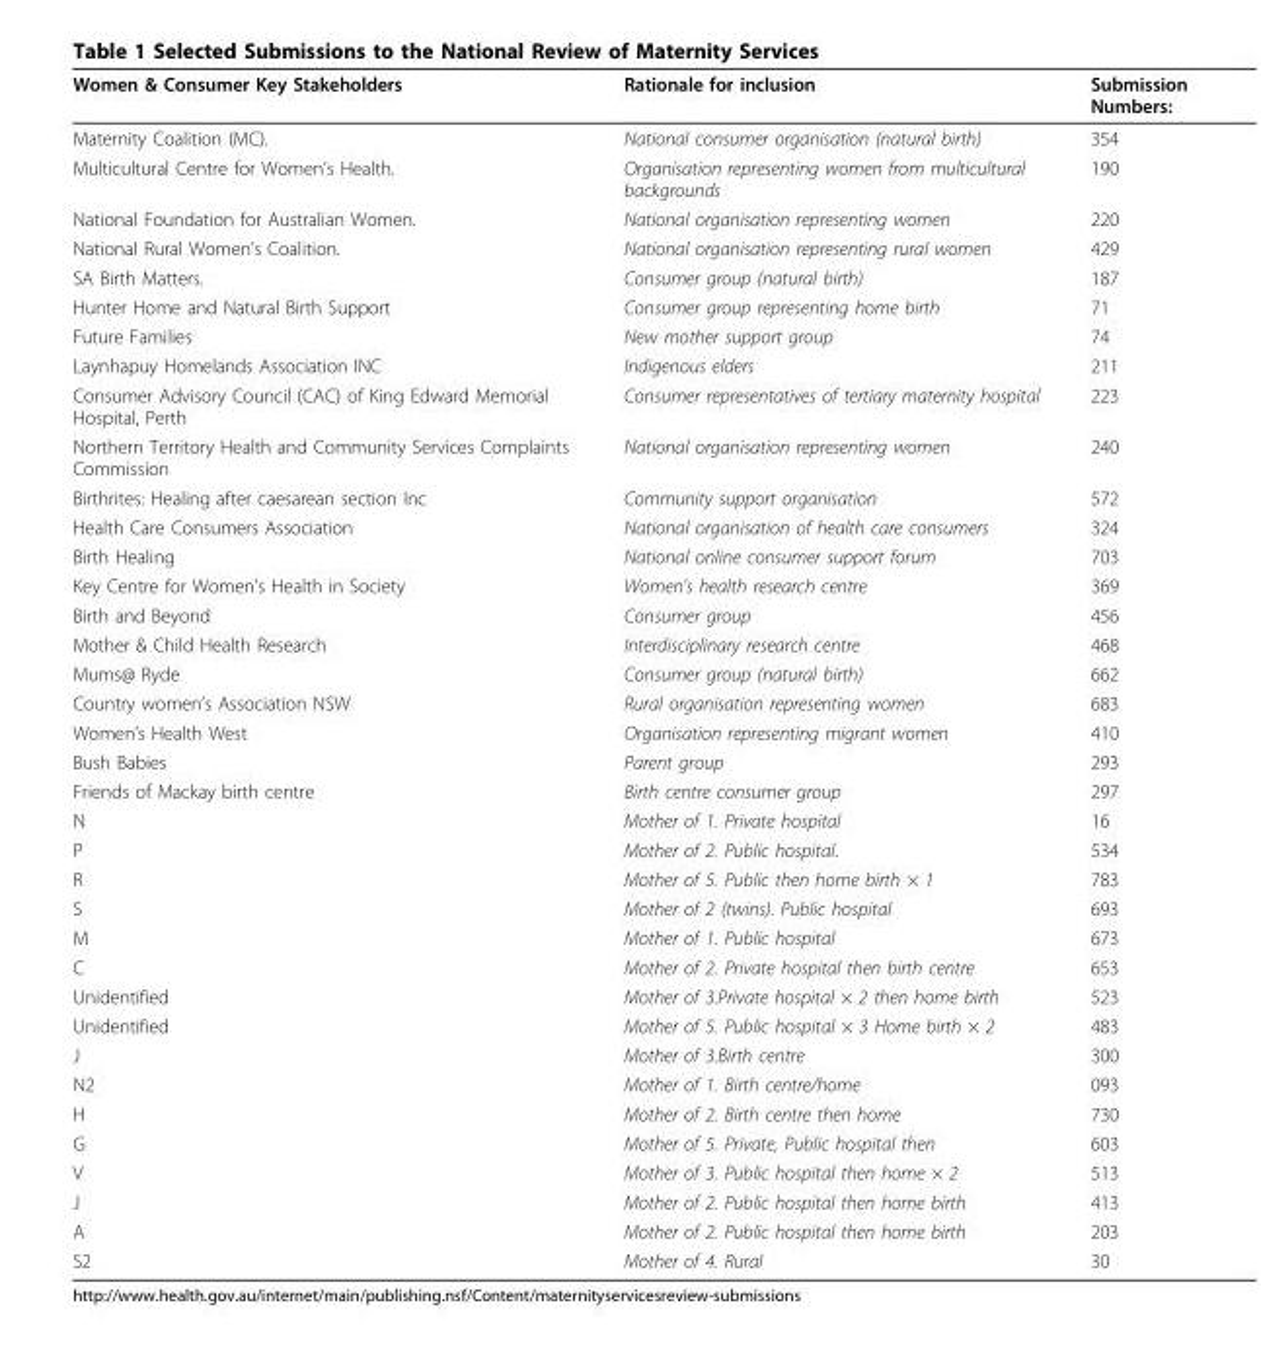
<table><thead><tr><td>Women &amp; Consumer Key Stakeholders</td><td>Rationale for inclusion</td><td>Submission Numbers:</td></tr></thead><tbody><tr><td>Maternity Coalition (MC).</td><td>National consumer organisation (natural birth)</td><td>354</td></tr><tr><td>Multicultural Centre for Women’s Health.</td><td>Organisation representing women from multicultural backgrounds</td><td>190</td></tr><tr><td>National Foundation for Australian Women.</td><td>National organisation representing women</td><td>220</td></tr><tr><td>National Rural Women’s Coalition.</td><td>National organisation representing rural women</td><td>429</td></tr><tr><td>SA Birth Matters.</td><td>Consumer group (natural birth)</td><td>187</td></tr><tr><td>Hunter Home and Natural Birth Support</td><td>Consumer group representing home birth</td><td>71</td></tr><tr><td>Future Families</td><td>New mother support group</td><td>74</td></tr><tr><td>Laynhapuy Homelands Association INC</td><td>Indigenous elders</td><td>211</td></tr><tr><td>Consumer Advisory Council (CAC) of King Edward Memorial Hospital, Perth</td><td>Consumer representatives of tertiary maternity hospital</td><td>223</td></tr><tr><td>Northern Territory Health and Community Services Complaints Commission</td><td>National organisation representing women</td><td>240</td></tr><tr><td>Birthrites: Healing after caesarean section Inc</td><td>Community support organisation</td><td>572</td></tr><tr><td>Health Care Consumers Association</td><td>National organisation of health care consumers</td><td>324</td></tr><tr><td>Birth Healing</td><td>National online consumer support forum</td><td>703</td></tr><tr><td>Key Centre for Women’s Health in Society</td><td>Women’s health research centre</td><td>369</td></tr><tr><td>Birth and Beyond</td><td>Consumer group</td><td>456</td></tr><tr><td>Mother &amp; Child Health Research</td><td>Interdisciplinary research centre</td><td>468</td></tr><tr><td>Mums@ Ryde</td><td>Consumer group (natural birth)</td><td>662</td></tr><tr><td>Country women’s Association NSW</td><td>Rural organisation representing women</td><td>683</td></tr><tr><td>Women’s Health West</td><td>Organisation representing migrant women</td><td>410</td></tr><tr><td>Bush Babies</td><td>Parent group</td><td>293</td></tr><tr><td>Friends of Mackay birth centre</td><td>Birth centre consumer group</td><td>297</td></tr><tr><td>N</td><td>Mother of 1. Private hospital</td><td>16</td></tr><tr><td>P</td><td>Mother of 2. Public hospital.</td><td>534</td></tr><tr><td>R</td><td>Mother of 5. Public then home birth × 1</td><td>783</td></tr><tr><td>S</td><td>Mother of 2 (twins). Public hospital</td><td>693</td></tr><tr><td>M</td><td>Mother of 1. Public hospital</td><td>673</td></tr><tr><td>C</td><td>Mother of 2. Private hospital then birth centre</td><td>653</td></tr><tr><td>Unidentified</td><td>Mother of 3.Private hospital × 2 then home birth</td><td>523</td></tr><tr><td>Unidentified</td><td>Mother of 5. Public hospital × 3 Home birth × 2</td><td>483</td></tr><tr><td>J</td><td>Mother of 3.Birth centre</td><td>300</td></tr><tr><td>N2</td><td>Mother of 1. Birth centre/home</td><td>093</td></tr><tr><td>H</td><td>Mother of 2. Birth centre then home</td><td>730</td></tr><tr><td>G</td><td>Mother of 5. Private, Public hospital then</td><td>603</td></tr><tr><td>V</td><td>Mother of 3. Public hospital then home × 2</td><td>513</td></tr><tr><td>J</td><td>Mother of 2. Public hospital then home birth</td><td>413</td></tr><tr><td>A</td><td>Mother of 2. Public hospital then home birth</td><td>203</td></tr><tr><td>S2</td><td>Mother of 4. Rural</td><td>30</td></tr></tbody></table>